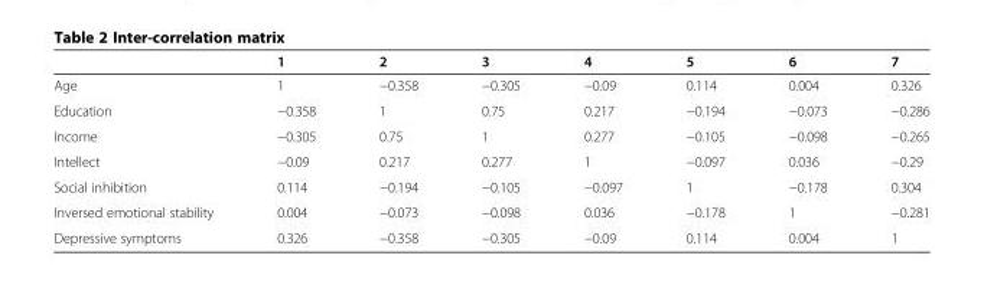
<table><thead><tr><td></td><td>1</td><td>2</td><td>3</td><td>4</td><td>5</td><td>6</td><td>7</td></tr></thead><tbody><tr><td>Age</td><td>1</td><td>−0.358</td><td>−0.305</td><td>−0.09</td><td>0.114</td><td>0.004</td><td>0.326</td></tr><tr><td>Education</td><td>−0.358</td><td>1</td><td>0.75</td><td>0.217</td><td>−0.194</td><td>−0.073</td><td>−0.286</td></tr><tr><td>Income</td><td>−0.305</td><td>0.75</td><td>1</td><td>0.277</td><td>−0.105</td><td>−0.098</td><td>−0.265</td></tr><tr><td>Intellect</td><td>−0.09</td><td>0.217</td><td>0.277</td><td>1</td><td>−0.097</td><td>0.036</td><td>−0.29</td></tr><tr><td>Social inhibition</td><td>0.114</td><td>−0.194</td><td>−0.105</td><td>−0.097</td><td>1</td><td>−0.178</td><td>0.304</td></tr><tr><td>Inversed emotional stability</td><td>0.004</td><td>−0.073</td><td>−0.098</td><td>0.036</td><td>−0.178</td><td>1</td><td>−0.281</td></tr><tr><td>Depressive symptoms</td><td>0.326</td><td>−0.358</td><td>−0.305</td><td>−0.09</td><td>0.114</td><td>0.004</td><td>1</td></tr></tbody></table>